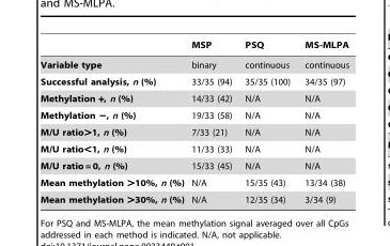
<table><thead><tr><td></td><td>MSP</td><td>PSQ</td><td>MS-MLPA</td></tr></thead><tbody><tr><td>Variable type</td><td>binary</td><td>continuous</td><td>continuous</td></tr><tr><td>Successful analysis, n (%)</td><td>33/35 (94)</td><td>35/35 (100)</td><td>34/35 (97)</td></tr><tr><td>Methylation +, n (%)</td><td>14/33 (42)</td><td>N/A</td><td>N/A</td></tr><tr><td>Methylation −, n (%)</td><td>19/33 (58)</td><td>N/A</td><td>N/A</td></tr><tr><td>M/U ratio&gt;1, n (%)</td><td>7/33 (21)</td><td>N/A</td><td>N/A</td></tr><tr><td>M/U ratio&lt;1, n (%)</td><td>11/33 (33)</td><td>N/A</td><td>N/A</td></tr><tr><td>M/U ratio = 0, n (%)</td><td>15/33 (45)</td><td>N/A</td><td>N/A</td></tr><tr><td>Mean methylation &gt;10%, n (%)</td><td>N/A</td><td>15/35 (43)</td><td>13/34 (38)</td></tr><tr><td>Mean methylation &gt;30%, n (%)</td><td>N/A</td><td>12/35 (34)</td><td>3/34 (9)</td></tr></tbody></table>